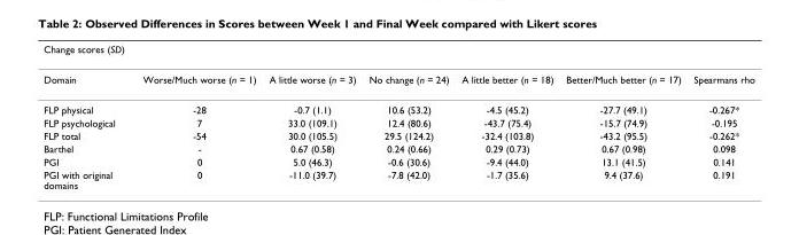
<table><thead><tr><td colspan="7">Change scores (SD)</td></tr><tr><td>Domain</td><td>Worse/Much worse (n = 1)</td><td>A little worse (n = 3)</td><td>No change (n = 24)</td><td>A little better (n = 18)</td><td>Better/Much better (n = 17)</td><td>Spearmans rho</td></tr></thead><tbody><tr><td>FLP physical</td><td>-28</td><td>-0.7 (1.1)</td><td>10.6 (53.2)</td><td>-4.5 (45.2)</td><td>-27.7 (49.1)</td><td>-0.267*</td></tr><tr><td>FLP psychological</td><td>7</td><td>33.0 (109.1)</td><td>12.4 (80.6)</td><td>-43.7 (75.4)</td><td>-15.7 (74.9)</td><td>-0.195</td></tr><tr><td>FLP total</td><td>-54</td><td>30.0 (105.5)</td><td>29.5 (124.2)</td><td>-32.4 (103.8)</td><td>-43.2 (95.5)</td><td>-0.262*</td></tr><tr><td>Barthel</td><td>-</td><td>0.67 (0.58)</td><td>0.24 (0.66)</td><td>0.29 (0.73)</td><td>0.67 (0.98)</td><td>0.098</td></tr><tr><td>PGI</td><td>0</td><td>5.0 (46.3)</td><td>-0.6 (30.6)</td><td>-9.4 (44.0)</td><td>13.1 (41.5)</td><td>0.141</td></tr><tr><td>PGI with original domains</td><td>0</td><td>-11.0 (39.7)</td><td>-7.8 (42.0)</td><td>-1.7 (35.6)</td><td>9.4 (37.6)</td><td>0.191</td></tr></tbody></table>